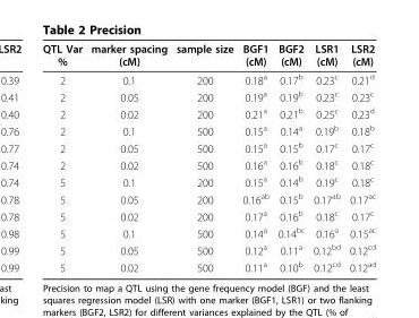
<table><thead><tr><td>QTL Var %</td><td>marker spacing (cM)</td><td>sample size</td><td>BGF1 (cM)</td><td>BGF2 (cM)</td><td>LSR1 (cM)</td><td>LSR2 (cM)</td></tr></thead><tbody><tr><td>2</td><td>0.1</td><td>200</td><td>0.18<sup>a</sup></td><td>0.17<sup>b</sup></td><td>0.23<sup>c</sup></td><td>0.21<sup>d</sup></td></tr><tr><td>2</td><td>0.05</td><td>200</td><td>0.19<sup>a</sup></td><td>0.19<sup>b</sup></td><td>0.23<sup>c</sup></td><td>0.23<sup>c</sup></td></tr><tr><td>2</td><td>0.02</td><td>200</td><td>0.21<sup>a</sup></td><td>0.21<sup>b</sup></td><td>0.25<sup>c</sup></td><td>0.23<sup>d</sup></td></tr><tr><td>2</td><td>0.1</td><td>500</td><td>0.15<sup>a</sup></td><td>0.14<sup>a</sup></td><td>0.19<sup>b</sup></td><td>0.18<sup>b</sup></td></tr><tr><td>2</td><td>0.05</td><td>500</td><td>0.15<sup>a</sup></td><td>0.15<sup>b</sup></td><td>0.17<sup>c</sup></td><td>0.17<sup>c</sup></td></tr><tr><td>2</td><td>0.02</td><td>500</td><td>0.16<sup>a</sup></td><td>0.16<sup>b</sup></td><td>0.18<sup>c</sup></td><td>0.18<sup>c</sup></td></tr><tr><td>5</td><td>0.1</td><td>200</td><td>0.15<sup>a</sup></td><td>0.14<sup>b</sup></td><td>0.19<sup>c</sup></td><td>0.18<sup>c</sup></td></tr><tr><td>5</td><td>0.05</td><td>200</td><td>0.16<sup>ab</sup></td><td>0.15<sup>b</sup></td><td>0.17<sup>ab</sup></td><td>0.17<sup>ac</sup></td></tr><tr><td>5</td><td>0.02</td><td>200</td><td>0.17<sup>a</sup></td><td>0.16<sup>b</sup></td><td>0.18<sup>c</sup></td><td>0.17<sup>c</sup></td></tr><tr><td>5</td><td>0.1</td><td>500</td><td>0.14<sup>a</sup></td><td>0.14<sup>bc</sup></td><td>0.16<sup>a</sup></td><td>0.15<sup>ac</sup></td></tr><tr><td>5</td><td>0.05</td><td>500</td><td>0.12<sup>a</sup></td><td>0.11<sup>a</sup></td><td>0.12<sup>bd</sup></td><td>0.12<sup>cd</sup></td></tr><tr><td>5</td><td>0.02</td><td>500</td><td>0.11<sup>a</sup></td><td>0.10<sup>b</sup></td><td>0.12<sup>cd</sup></td><td>0.12<sup>ad</sup></td></tr></tbody></table>